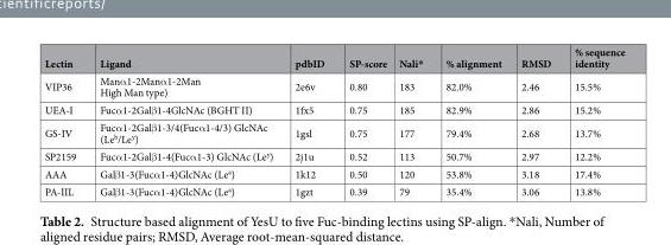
<table><thead><tr><td>Lectin</td><td>Ligand</td><td>pdbID</td><td>SP-score</td><td>Nali*</td><td>% alignment</td><td>RMSD</td><td>% sequence identity</td></tr></thead><tbody><tr><td>VIP36</td><td>Manα1-2Manα1-2Man High Man type)</td><td>2e6v</td><td>0.80</td><td>183</td><td>82.0%</td><td>2.46</td><td>15.5%</td></tr><tr><td>UEA-I</td><td>Fucα1-2Galβ1-4GlcNAc (BGHT II)</td><td>1fx5</td><td>0.75</td><td>185</td><td>82.9%</td><td>2.86</td><td>15.2%</td></tr><tr><td>GS-IV</td><td>Fucα1-2Galβ1-3/4(Fucα1-4/3) GlcNAc (Le<sup>b</sup>/Le<sup>y</sup>)</td><td>1gsl</td><td>0.75</td><td>177</td><td>79.4%</td><td>2.68</td><td>13.7%</td></tr><tr><td>SP2159</td><td>Fucα1-2Galβ1-4(Fucα1-3) GlcNAc (Le<sup>y</sup>)</td><td>2j1u</td><td>0.52</td><td>113</td><td>50.7%</td><td>2.97</td><td>12.2%</td></tr><tr><td>AAA</td><td>Galβ1-3(Fucα1-4)GlcNAc (Le<sup>a</sup>)</td><td>1k12</td><td>0.50</td><td>120</td><td>53.8%</td><td>3.18</td><td>17.4%</td></tr><tr><td>PA-IIL</td><td>Galβ1-3(Fucα1-4)GlcNAc (Le<sup>a</sup>)</td><td>1gzt</td><td>0.39</td><td>79</td><td>35.4%</td><td>3.06</td><td>13.8%</td></tr></tbody></table>